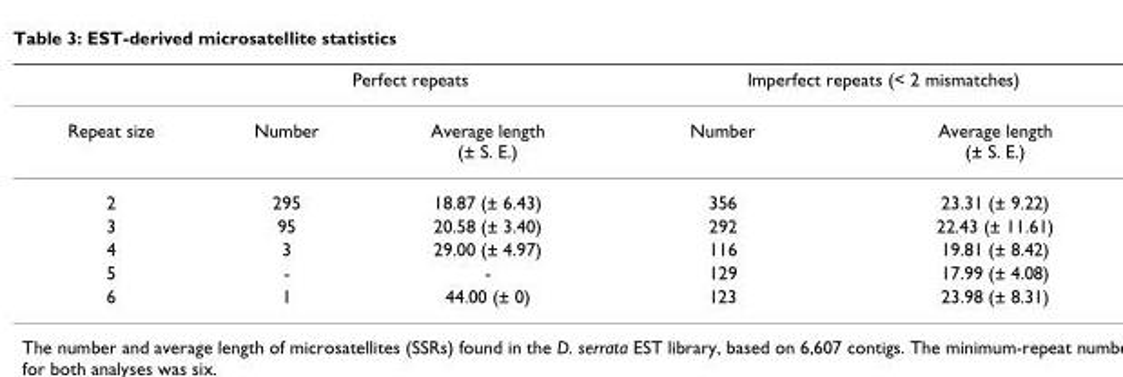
<table><thead><tr><td rowspan="2">Repeat size</td><td colspan="2">Perfect repeats</td><td colspan="2">Imperfect repeats (&lt; 2 mismatches)</td></tr><tr><td>Number</td><td>Average length (± S. E.)</td><td>Number</td><td>Average length (± S. E.)</td></tr></thead><tbody><tr><td>2</td><td>295</td><td>18.87 (± 6.43)</td><td>356</td><td>23.31 (± 9.22)</td></tr><tr><td>3</td><td>95</td><td>20.58 (± 3.40)</td><td>292</td><td>22.43 (± 11.61)</td></tr><tr><td>4</td><td>3</td><td>29.00 (± 4.97)</td><td>116</td><td>19.81 (± 8.42)</td></tr><tr><td>5</td><td>-</td><td>-</td><td>129</td><td>17.99 (± 4.08)</td></tr><tr><td>6</td><td>1</td><td>44.00 (± 0)</td><td>123</td><td>23.98 (± 8.31)</td></tr></tbody></table>